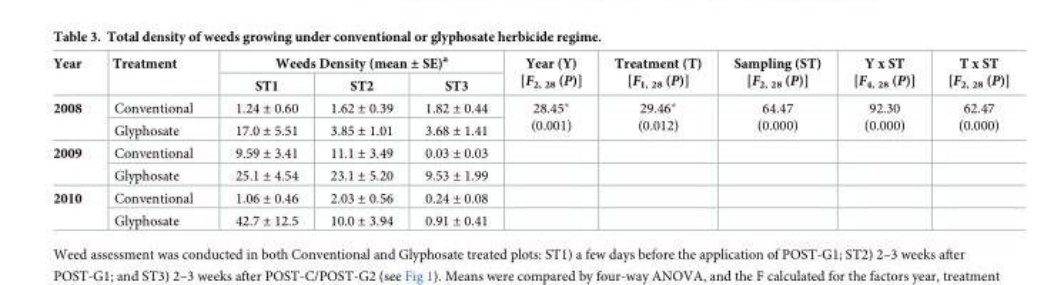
<table><thead><tr><td rowspan="2">Year</td><td rowspan="2">Treatment</td><td colspan="3">Weeds Density (mean ± SE)<sup>a</sup></td><td rowspan="2">Year (Y) [F<sub>2, 28</sub> (P)]</td><td rowspan="2">Treatment (T) [F<sub>1, 28</sub> (P)]</td><td rowspan="2">Sampling (ST) [F<sub>2, 28</sub> (P)]</td><td rowspan="2">Y x ST [F<sub>4, 28</sub> (P)]</td><td rowspan="2">T x ST [F<sub>2, 28</sub> (P)]</td></tr><tr><td>ST1</td><td>ST2</td><td>ST3</td></tr></thead><tbody><tr><td rowspan="2">2008</td><td>Conventional</td><td>1.24 ± 0.60</td><td>1.62 ± 0.39</td><td>1.82 ± 0.44</td><td rowspan="2">28.45* (0.001)</td><td rowspan="2">29.46* (0.012)</td><td rowspan="2">64.47 (0.000)</td><td rowspan="2">92.30 (0.000)</td><td rowspan="2">62.47 (0.000)</td></tr><tr><td>Glyphosate</td><td>17.0 ± 5.51</td><td>3.85 ± 1.01</td><td>3.68 ± 1.41</td></tr><tr><td rowspan="2">2009</td><td>Conventional</td><td>9.59 ± 3.41</td><td>11.1 ± 3.49</td><td>0.03 ± 0.03</td><td></td><td></td><td></td><td></td><td></td></tr><tr><td>Glyphosate</td><td>25.1 ± 4.54</td><td>23.1 ± 5.20</td><td>9.53 ± 1.99</td><td></td><td></td><td></td><td></td><td></td></tr><tr><td rowspan="2">2010</td><td>Conventional</td><td>1.06 ± 0.46</td><td>2.03 ± 0.56</td><td>0.24 ± 0.08</td><td></td><td></td><td></td><td></td><td></td></tr><tr><td>Glyphosate</td><td>42.7 ± 12.5</td><td>10.0 ± 3.94</td><td>0.91 ± 0.41</td><td></td><td></td><td></td><td></td><td></td></tr></tbody></table>